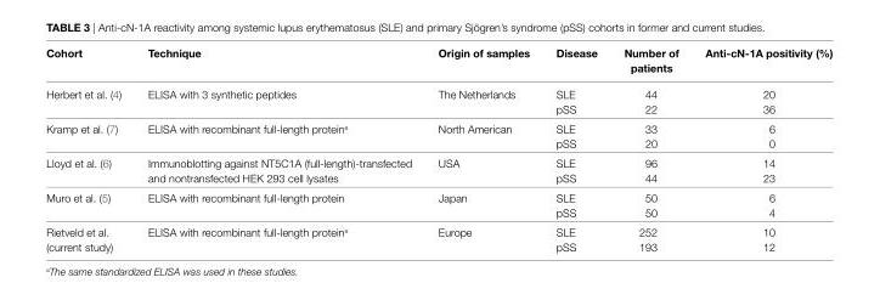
<table><thead><tr><td>cohort</td><td>Technique</td><td>Origin of samples</td><td>Disease</td><td>number of patients</td><td>anti-cn-1a positivity (%)</td></tr></thead><tbody><tr><td rowspan="2">Herbert et al. (4)</td><td rowspan="2">ELISA with 3 synthetic peptides</td><td rowspan="2">The Netherlands</td><td>SLE</td><td>44</td><td>20</td></tr><tr><td>pSS</td><td>22</td><td>36</td></tr><tr><td rowspan="2">Kramp et al. (7)</td><td rowspan="2">ELISA with recombinant full-length protein<sup>a</sup></td><td rowspan="2">North American</td><td>SLE</td><td>33</td><td>6</td></tr><tr><td>pSS</td><td>20</td><td>0</td></tr><tr><td rowspan="2">Lloyd et al. (6)</td><td rowspan="2">Immunoblotting against NT5C1A (full-length)-transfected and nontransfected HEK 293 cell lysates</td><td rowspan="2">USA</td><td>SLE</td><td>96</td><td>14</td></tr><tr><td>pSS</td><td>44</td><td>23</td></tr><tr><td rowspan="2">Muro et al. (5)</td><td rowspan="2">ELISA with recombinant full-length protein</td><td rowspan="2">Japan</td><td>SLE</td><td>50</td><td>6</td></tr><tr><td>pSS</td><td>50</td><td>4</td></tr><tr><td rowspan="2">Rietveld et al. (current study)</td><td rowspan="2">ELISA with recombinant full-length protein<sup>a</sup></td><td rowspan="2">Europe</td><td>SLE</td><td>252</td><td>10</td></tr><tr><td>pSS</td><td>193</td><td>12</td></tr></tbody></table>